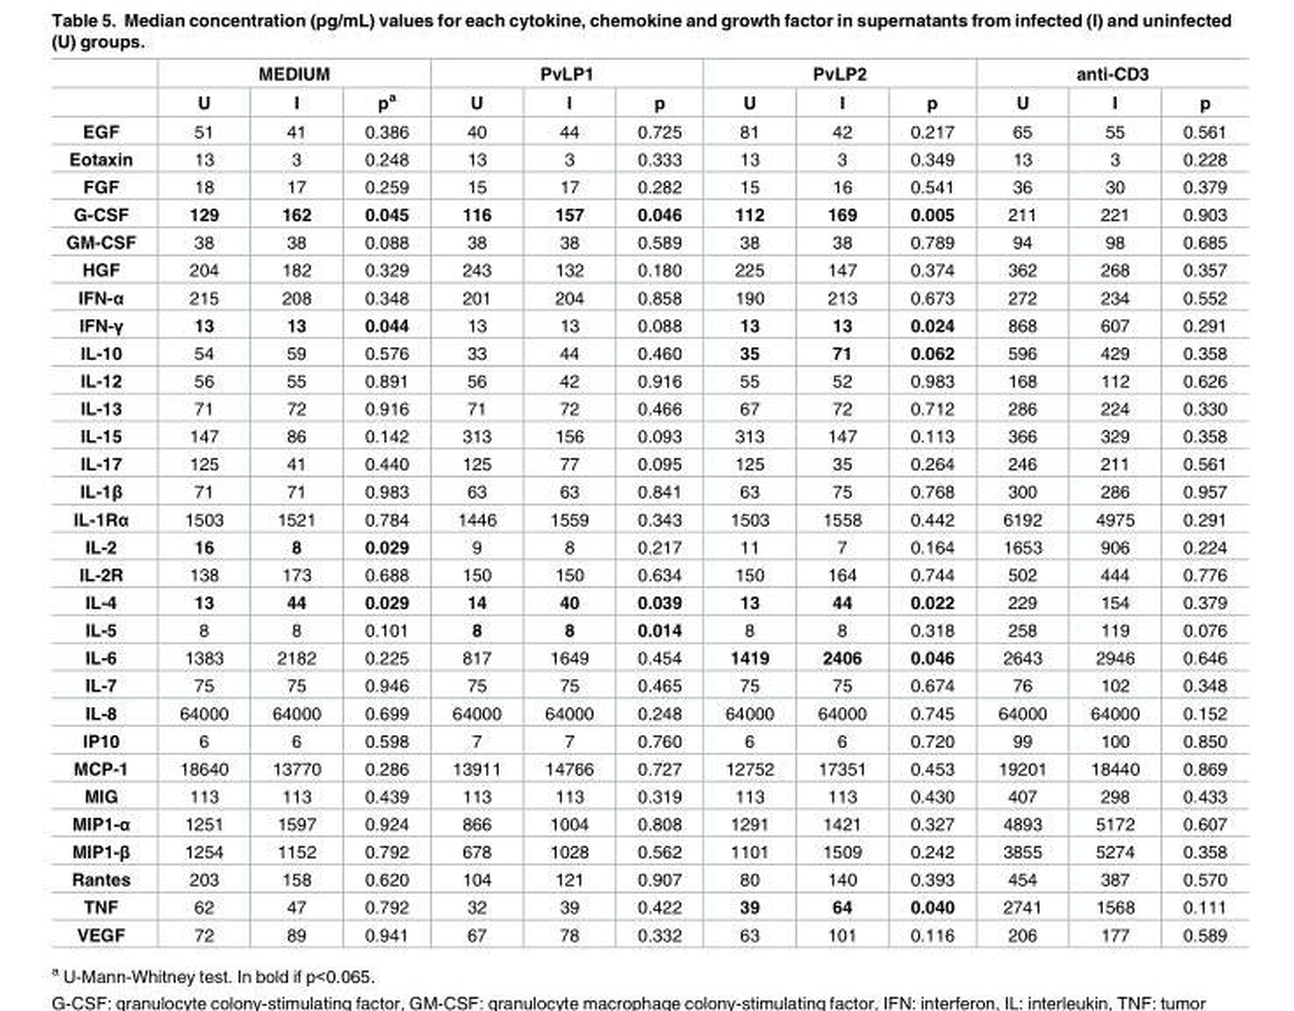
<table><thead><tr><td rowspan="2"></td><td colspan="3">MEDIUM</td><td colspan="3">PvLP1</td><td colspan="3">PvLP2</td><td colspan="3">anti-CD3</td></tr><tr><td>U</td><td>I</td><td>p<sup>a</sup></td><td>U</td><td>I</td><td>p</td><td>U</td><td>I</td><td>p</td><td>U</td><td>I</td><td>p</td></tr></thead><tbody><tr><td>EGF</td><td>51</td><td>41</td><td>0.386</td><td>40</td><td>44</td><td>0.725</td><td>81</td><td>42</td><td>0.217</td><td>65</td><td>55</td><td>0.561</td></tr><tr><td>Eotaxin</td><td>13</td><td>3</td><td>0.248</td><td>13</td><td>3</td><td>0.333</td><td>13</td><td>3</td><td>0.349</td><td>13</td><td>3</td><td>0.228</td></tr><tr><td>FGF</td><td>18</td><td>17</td><td>0.259</td><td>15</td><td>17</td><td>0.282</td><td>15</td><td>16</td><td>0.541</td><td>36</td><td>30</td><td>0.379</td></tr><tr><td>G-CSF</td><td>129</td><td>162</td><td>0.045</td><td>116</td><td>157</td><td>0.046</td><td>112</td><td>169</td><td>0.005</td><td>211</td><td>221</td><td>0.903</td></tr><tr><td>GM-CSF</td><td>38</td><td>38</td><td>0.088</td><td>38</td><td>38</td><td>0.589</td><td>38</td><td>38</td><td>0.789</td><td>94</td><td>98</td><td>0.685</td></tr><tr><td>HGF</td><td>204</td><td>182</td><td>0.329</td><td>243</td><td>132</td><td>0.180</td><td>225</td><td>147</td><td>0.374</td><td>362</td><td>268</td><td>0.357</td></tr><tr><td>IFN-α</td><td>215</td><td>208</td><td>0.348</td><td>201</td><td>204</td><td>0.858</td><td>190</td><td>213</td><td>0.673</td><td>272</td><td>234</td><td>0.552</td></tr><tr><td>IFN-γ</td><td>13</td><td>13</td><td>0.044</td><td>13</td><td>13</td><td>0.088</td><td>13</td><td>13</td><td>0.024</td><td>868</td><td>607</td><td>0.291</td></tr><tr><td>IL-10</td><td>54</td><td>59</td><td>0.576</td><td>33</td><td>44</td><td>0.460</td><td>35</td><td>71</td><td>0.062</td><td>596</td><td>429</td><td>0.358</td></tr><tr><td>IL-12</td><td>56</td><td>55</td><td>0.891</td><td>56</td><td>42</td><td>0.916</td><td>55</td><td>52</td><td>0.983</td><td>168</td><td>112</td><td>0.626</td></tr><tr><td>IL-13</td><td>71</td><td>72</td><td>0.916</td><td>71</td><td>72</td><td>0.466</td><td>67</td><td>72</td><td>0.712</td><td>286</td><td>224</td><td>0.330</td></tr><tr><td>IL-15</td><td>147</td><td>86</td><td>0.142</td><td>313</td><td>156</td><td>0.093</td><td>313</td><td>147</td><td>0.113</td><td>366</td><td>329</td><td>0.358</td></tr><tr><td>IL-17</td><td>125</td><td>41</td><td>0.440</td><td>125</td><td>77</td><td>0.095</td><td>125</td><td>35</td><td>0.264</td><td>246</td><td>211</td><td>0.561</td></tr><tr><td>IL-1β</td><td>71</td><td>71</td><td>0.983</td><td>63</td><td>63</td><td>0.841</td><td>63</td><td>75</td><td>0.768</td><td>300</td><td>286</td><td>0.957</td></tr><tr><td>IL-1Rα</td><td>1503</td><td>1521</td><td>0.784</td><td>1446</td><td>1559</td><td>0.343</td><td>1503</td><td>1558</td><td>0.442</td><td>6192</td><td>4975</td><td>0.291</td></tr><tr><td>IL-2</td><td>16</td><td>8</td><td>0.029</td><td>9</td><td>8</td><td>0.217</td><td>11</td><td>7</td><td>0.164</td><td>1653</td><td>906</td><td>0.224</td></tr><tr><td>IL-2R</td><td>138</td><td>173</td><td>0.688</td><td>150</td><td>150</td><td>0.634</td><td>150</td><td>164</td><td>0.744</td><td>502</td><td>444</td><td>0.776</td></tr><tr><td>IL-4</td><td>13</td><td>44</td><td>0.029</td><td>14</td><td>40</td><td>0.039</td><td>13</td><td>44</td><td>0.022</td><td>229</td><td>154</td><td>0.379</td></tr><tr><td>IL-5</td><td>8</td><td>8</td><td>0.101</td><td>8</td><td>8</td><td>0.014</td><td>8</td><td>8</td><td>0.318</td><td>258</td><td>119</td><td>0.076</td></tr><tr><td>IL-6</td><td>1383</td><td>2182</td><td>0.225</td><td>817</td><td>1649</td><td>0.454</td><td>1419</td><td>2406</td><td>0.046</td><td>2643</td><td>2946</td><td>0.646</td></tr><tr><td>IL-7</td><td>75</td><td>75</td><td>0.946</td><td>75</td><td>75</td><td>0.465</td><td>75</td><td>75</td><td>0.674</td><td>76</td><td>102</td><td>0.348</td></tr><tr><td>IL-8</td><td>64000</td><td>64000</td><td>0.699</td><td>64000</td><td>64000</td><td>0.248</td><td>64000</td><td>64000</td><td>0.745</td><td>64000</td><td>64000</td><td>0.152</td></tr><tr><td>IP10</td><td>6</td><td>6</td><td>0.598</td><td>7</td><td>7</td><td>0.760</td><td>6</td><td>6</td><td>0.720</td><td>99</td><td>100</td><td>0.850</td></tr><tr><td>MCP-1</td><td>18640</td><td>13770</td><td>0.286</td><td>13911</td><td>14766</td><td>0.727</td><td>12752</td><td>17351</td><td>0.453</td><td>19201</td><td>18440</td><td>0.869</td></tr><tr><td>MIG</td><td>113</td><td>113</td><td>0.439</td><td>113</td><td>113</td><td>0.319</td><td>113</td><td>113</td><td>0.430</td><td>407</td><td>298</td><td>0.433</td></tr><tr><td>MIP1-α</td><td>1251</td><td>1597</td><td>0.924</td><td>866</td><td>1004</td><td>0.808</td><td>1291</td><td>1421</td><td>0.327</td><td>4893</td><td>5172</td><td>0.607</td></tr><tr><td>MIP1-β</td><td>1254</td><td>1152</td><td>0.792</td><td>678</td><td>1028</td><td>0.562</td><td>1101</td><td>1509</td><td>0.242</td><td>3855</td><td>5274</td><td>0.358</td></tr><tr><td>Rantes</td><td>203</td><td>158</td><td>0.620</td><td>104</td><td>121</td><td>0.907</td><td>80</td><td>140</td><td>0.393</td><td>454</td><td>387</td><td>0.570</td></tr><tr><td>TNF</td><td>62</td><td>47</td><td>0.792</td><td>32</td><td>39</td><td>0.422</td><td>39</td><td>64</td><td>0.040</td><td>2741</td><td>1568</td><td>0.111</td></tr><tr><td>VEGF</td><td>72</td><td>89</td><td>0.941</td><td>67</td><td>78</td><td>0.332</td><td>63</td><td>101</td><td>0.116</td><td>206</td><td>177</td><td>0.589</td></tr></tbody></table>